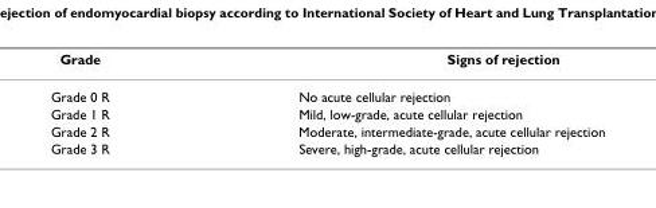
<table><thead><tr><td>Grade</td><td>Signs of rejection</td></tr></thead><tbody><tr><td>Grade 0 R</td><td>No acute cellular rejection</td></tr><tr><td>Grade 1 R</td><td>Mild, low-grade, acute cellular rejection</td></tr><tr><td>Grade 2 R</td><td>Moderate, intermediate-grade, acute cellular rejection</td></tr><tr><td>Grade 3 R</td><td>Severe, high-grade, acute cellular rejection</td></tr></tbody></table>